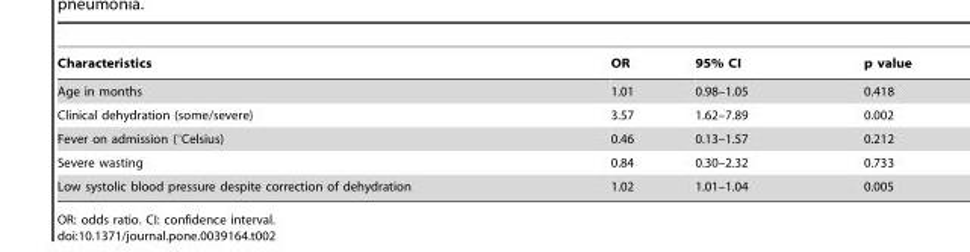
<table><thead><tr><td>Characteristics</td><td>OR</td><td>95% CI</td><td>p value</td></tr></thead><tbody><tr><td>Age in months</td><td>1.01</td><td>0.98–1.05</td><td>0.418</td></tr><tr><td>Clinical dehydration (some/severe)</td><td>3.57</td><td>1.62–7.89</td><td>0.002</td></tr><tr><td>Fever on admission (°Celsius)</td><td>0.46</td><td>0.13–1.57</td><td>0.212</td></tr><tr><td>Severe wasting</td><td>0.84</td><td>0.30–2.32</td><td>0.733</td></tr><tr><td>Low systolic blood pressure despite correction of dehydration</td><td>1.02</td><td>1.01–1.04</td><td>0.005</td></tr></tbody></table>